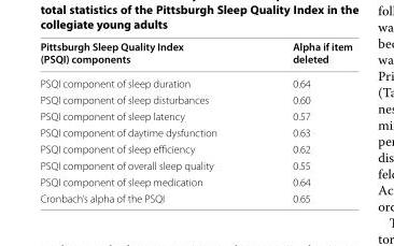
<table><thead><tr><td>Pittsburgh Sleep Quality Index (PSQI) components</td><td>Alpha if item deleted</td></tr></thead><tbody><tr><td>PSQI component of sleep duration</td><td>0.64</td></tr><tr><td>PSQI component of sleep disturbances</td><td>0.60</td></tr><tr><td>PSQI component of sleep latency</td><td>0.57</td></tr><tr><td>PSQI component of daytime dysfunction</td><td>0.63</td></tr><tr><td>PSQI component of sleep efficiency</td><td>0.62</td></tr><tr><td>PSQI component of overall sleep quality</td><td>0.55</td></tr><tr><td>PSQI component of sleep medication</td><td>0.64</td></tr><tr><td>Cronbach’s alpha of the PSQI</td><td>0.65</td></tr></tbody></table>